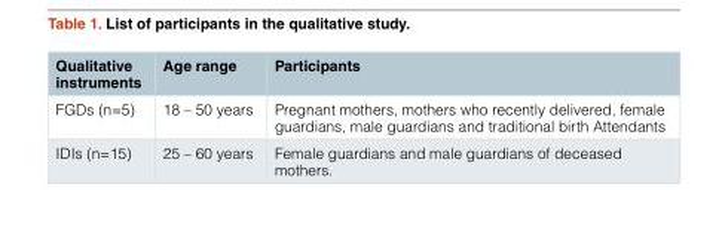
<table><thead><tr><td>Qualitative instruments</td><td>Age range</td><td>Participants</td></tr></thead><tbody><tr><td>FGDs (n=5)</td><td>18 – 50 years</td><td>Pregnant mothers, mothers who recently delivered, female guardians, male guardians and traditional birth Attendants</td></tr><tr><td>IDIs (n=15)</td><td>25 – 60 years</td><td>Female guardians and male guardians of deceased mothers.</td></tr></tbody></table>